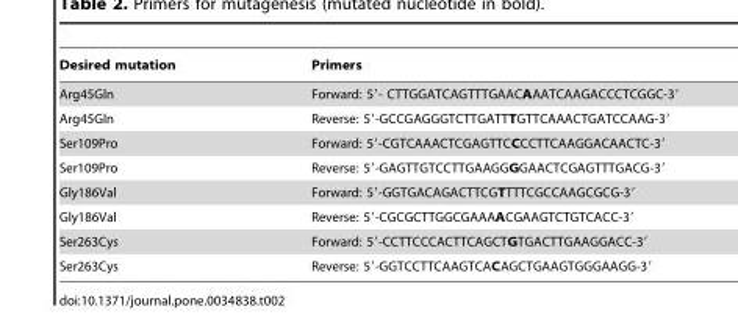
<table><thead><tr><td>Desired mutation</td><td>Primers</td></tr></thead><tbody><tr><td>Arg45Gln</td><td>Forward: 5′- CTTGGATCAGTTTGAACAAATCAAGACCCTCGGC-3′</td></tr><tr><td>Arg45Gln</td><td>Reverse: 5′-GCCGAGGGTCTTGATTTGTTCAAACTGATCCAAG-3′</td></tr><tr><td>Ser109Pro</td><td>Forward: 5′-CGTCAAACTCGAGTTCCCCTTCAAGGACAACTC-3′</td></tr><tr><td>Ser109Pro</td><td>Reverse: 5′-GAGTTGTCCTTGAAGGGGAACTCGAGTTTGACG-3′</td></tr><tr><td>Gly186Val</td><td>Forward: 5′-GGTGACAGACTTCGTTTTCGCCAAGCGCG-3′</td></tr><tr><td>Gly186Val</td><td>Reverse: 5′-CGCGCTTGGCGAAAACGAAGTCTGTCACC-3′</td></tr><tr><td>Ser263Cys</td><td>Forward: 5′-CCTTCCCACTTCAGCTGTGACTTGAAGGACC-3′</td></tr><tr><td>Ser263Cys</td><td>Reverse: 5′-GGTCCTTCAAGTCACAGCTGAAGTGGGAAGG-3′</td></tr></tbody></table>